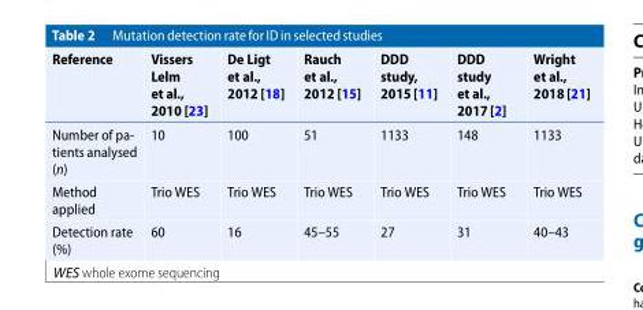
<table><thead><tr><td>Reference</td><td>Vissers Lelm et al., 2010 [23]</td><td>De Ligt et al., 2012 [18]</td><td>Rauch et al., 2012 [15]</td><td>DDD study, 2015 [11]</td><td>DDD study et al., 2017 [2]</td><td>Wright et al., 2018 [21]</td></tr></thead><tbody><tr><td>Number of pa- tients analysed (n)</td><td>10</td><td>100</td><td>51</td><td>1133</td><td>148</td><td>1133</td></tr><tr><td>Method applied</td><td>Trio WES</td><td>Trio WES</td><td>Trio WES</td><td>Trio WES</td><td>Trio WES</td><td>Trio WES</td></tr><tr><td>Detection rate (%)</td><td>60</td><td>16</td><td>45–55</td><td>27</td><td>31</td><td>40–43</td></tr></tbody></table>